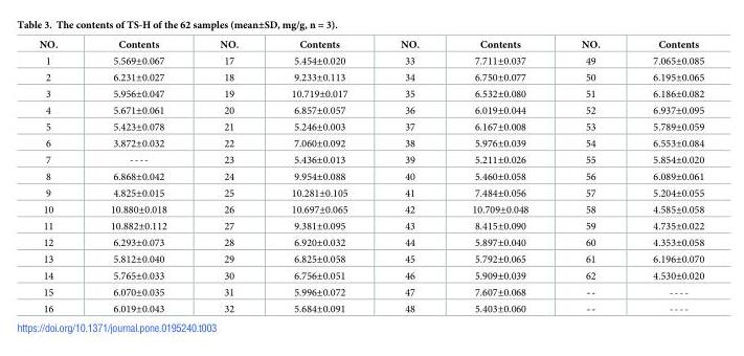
<table><thead><tr><td>NO.</td><td>Contents</td><td>NO.</td><td>Contents</td><td>NO.</td><td>Contents</td><td>NO.</td><td>Contents</td></tr></thead><tbody><tr><td>1</td><td>5.569±0.067</td><td>17</td><td>5.454±0.020</td><td>33</td><td>7.711±0.037</td><td>49</td><td>7.065±0.085</td></tr><tr><td>2</td><td>6.231±0.027</td><td>18</td><td>9.233±0.113</td><td>34</td><td>6.750±0.077</td><td>50</td><td>6.195±0.065</td></tr><tr><td>3</td><td>5.956±0.047</td><td>19</td><td>10.719±0.017</td><td>35</td><td>6.532±0.080</td><td>51</td><td>6.186±0.082</td></tr><tr><td>4</td><td>5.671±0.061</td><td>20</td><td>6.857±0.057</td><td>36</td><td>6.019±0.044</td><td>52</td><td>6.937±0.095</td></tr><tr><td>5</td><td>5.423±0.078</td><td>21</td><td>5.246±0.003</td><td>37</td><td>6.167±0.008</td><td>53</td><td>5.789±0.059</td></tr><tr><td>6</td><td>3.872±0.032</td><td>22</td><td>7.060±0.092</td><td>38</td><td>5.976±0.039</td><td>54</td><td>6.553±0.084</td></tr><tr><td>7</td><td>----</td><td>23</td><td>5.436±0.013</td><td>39</td><td>5.211±0.026</td><td>55</td><td>5.854±0.020</td></tr><tr><td>8</td><td>6.868±0.042</td><td>24</td><td>9.954±0.088</td><td>40</td><td>5.460±0.058</td><td>56</td><td>6.089±0.061</td></tr><tr><td>9</td><td>4.825±0.015</td><td>25</td><td>10.281±0.105</td><td>41</td><td>7.484±0.056</td><td>57</td><td>5.204±0.055</td></tr><tr><td>10</td><td>10.880±0.018</td><td>26</td><td>10.697±0.065</td><td>42</td><td>10.709±0.048</td><td>58</td><td>4.585±0.058</td></tr><tr><td>11</td><td>10.882±0.112</td><td>27</td><td>9.381±0.095</td><td>43</td><td>8.415±0.090</td><td>59</td><td>4.735±0.022</td></tr><tr><td>12</td><td>6.293±0.073</td><td>28</td><td>6.920±0.032</td><td>44</td><td>5.897±0.040</td><td>60</td><td>4.353±0.058</td></tr><tr><td>13</td><td>5.812±0.040</td><td>29</td><td>6.825±0.058</td><td>45</td><td>5.792±0.065</td><td>61</td><td>6.196±0.070</td></tr><tr><td>14</td><td>5.765±0.033</td><td>30</td><td>6.756±0.051</td><td>46</td><td>5.909±0.039</td><td>62</td><td>4.530±0.020</td></tr><tr><td>15</td><td>6.070±0.035</td><td>31</td><td>5.996±0.072</td><td>47</td><td>7.607±0.068</td><td>--</td><td>----</td></tr><tr><td>16</td><td>6.019±0.043</td><td>32</td><td>5.684±0.091</td><td>48</td><td>5.403±0.060</td><td>--</td><td>----</td></tr></tbody></table>